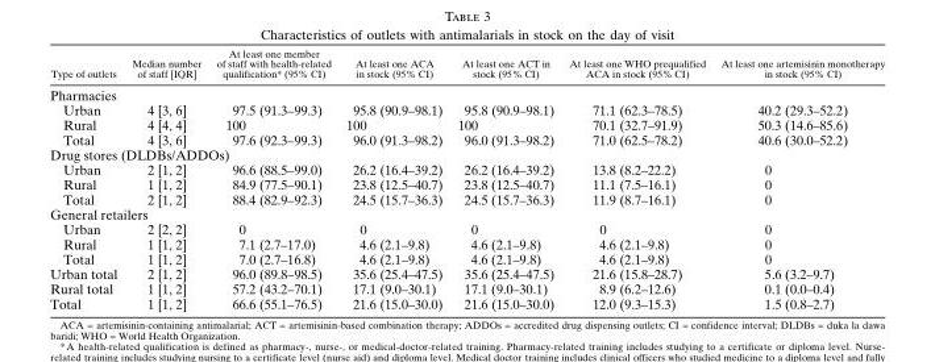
<table><thead><tr><td>Type of outlets</td><td>Median number of staff [IQR]</td><td>At least one member of staff with health-related qualification* (95% CI)</td><td>At least one ACA in stock (95% CI)</td><td>At least one ACT in stock (95% CI)</td><td>At least one WHO prequalified ACA in stock (95% CI)</td><td>At least one artemisinin monotherapy in stock (95% CI)</td></tr></thead><tbody><tr><td colspan="7">Pharmacies</td></tr><tr><td>Urban</td><td>4 [3, 6]</td><td>97.5 (91.3–99.3)</td><td>95.8 (90.9–98.1)</td><td>95.8 (90.9–98.1)</td><td>71.1 (62.3–78.5)</td><td>40.2 (29.3–52.2)</td></tr><tr><td>Rural</td><td>4 [4, 4]</td><td>100</td><td>100</td><td>100</td><td>70.1 (32.7–91.9)</td><td>50.3 (14.6–85.6)</td></tr><tr><td>Total</td><td>4 [3, 6]</td><td>97.6 (92.3–99.3)</td><td>96.0 (91.3–98.2)</td><td>96.0 (91.3–98.2)</td><td>71.0 (62.5–78.2)</td><td>40.6 (30.0–52.2)</td></tr><tr><td colspan="7">Drug stores (DLDBs/ADDOs)</td></tr><tr><td>Urban</td><td>2 [1, 2]</td><td>96.6 (88.5–99.0)</td><td>26.2 (16.4–39.2)</td><td>26.2 (16.4–39.2)</td><td>13.8 (8.2–22.2)</td><td>0</td></tr><tr><td>Rural</td><td>1 [1, 2]</td><td>84.9 (77.5–90.1)</td><td>23.8 (12.5–40.7)</td><td>23.8 (12.5–40.7)</td><td>11.1 (7.5–16.1)</td><td>0</td></tr><tr><td>Total</td><td>2 [1, 2]</td><td>88.4 (82.9–92.3)</td><td>24.5 (15.7–36.3)</td><td>24.5 (15.7–36.3)</td><td>11.9 (8.7–16.1)</td><td>0</td></tr><tr><td colspan="7">General retailers</td></tr><tr><td>Urban</td><td>2 [2, 2]</td><td>0</td><td>0</td><td>0</td><td>0</td><td>0</td></tr><tr><td>Rural</td><td>1 [1, 2]</td><td>7.1 (2.7–17.0)</td><td>4.6 (2.1–9.8)</td><td>4.6 (2.1–9.8)</td><td>4.6 (2.1–9.8)</td><td>0</td></tr><tr><td>Total</td><td>1 [1, 2]</td><td>7.0 (2.7–16.8)</td><td>4.6 (2.1–9.8)</td><td>4.6 (2.1–9.8)</td><td>4.6 (2.1–9.8)</td><td>0</td></tr><tr><td>Urban total</td><td>2 [1, 2]</td><td>96.0 (89.8–98.5)</td><td>35.6 (25.4–47.5)</td><td>35.6 (25.4–47.5)</td><td>21.6 (15.8–28.7)</td><td>5.6 (3.2–9.7)</td></tr><tr><td>Rural total</td><td>1 [1, 2]</td><td>57.2 (43.2–70.1)</td><td>17.1 (9.0–30.1)</td><td>17.1 (9.0–30.1)</td><td>8.9 (6.2–12.6)</td><td>0.1 (0.0–0.4)</td></tr><tr><td>Total</td><td>1 [1, 2]</td><td>66.6 (55.1–76.5)</td><td>21.6 (15.0–30.0)</td><td>21.6 (15.0–30.0)</td><td>12.0 (9.3–15.3)</td><td>1.5 (0.8–2.7)</td></tr></tbody></table>